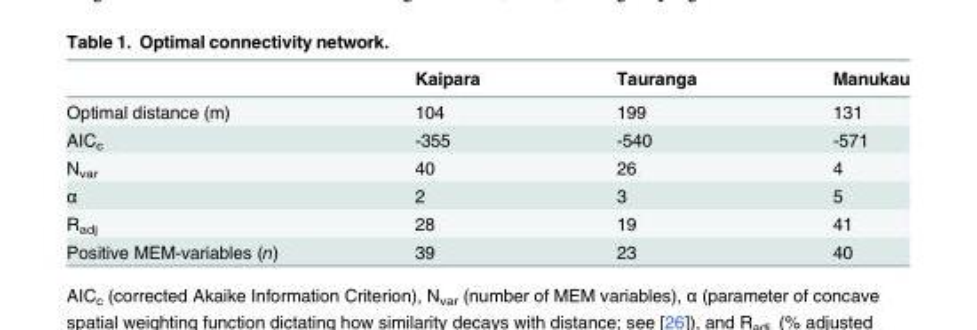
<table><thead><tr><td></td><td>Kaipara</td><td>Tauranga</td><td>Manukau</td></tr></thead><tbody><tr><td>Optimal distance (m)</td><td>104</td><td>199</td><td>131</td></tr><tr><td>AIC<sub>c</sub></td><td>-355</td><td>-540</td><td>-571</td></tr><tr><td>N<sub>var</sub></td><td>40</td><td>26</td><td>4</td></tr><tr><td>α</td><td>2</td><td>3</td><td>5</td></tr><tr><td>R<sub>adj</sub></td><td>28</td><td>19</td><td>41</td></tr><tr><td>Positive MEM-variables (n)</td><td>39</td><td>23</td><td>40</td></tr></tbody></table>